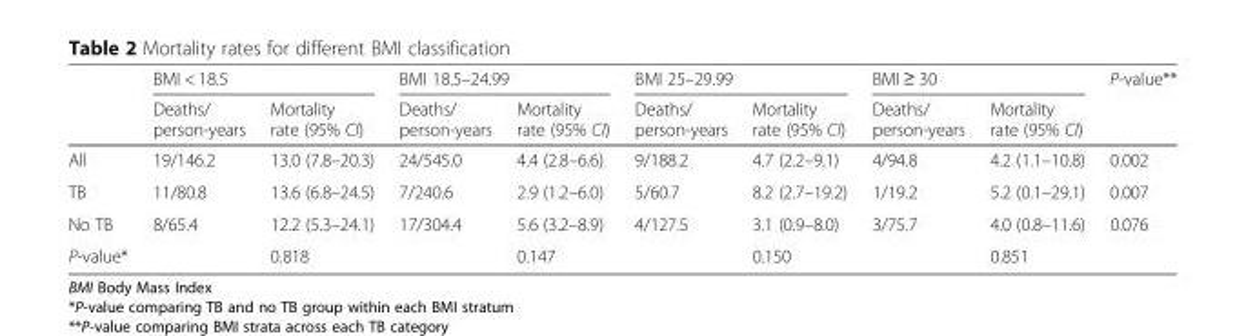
<table><thead><tr><td rowspan="2"></td><td colspan="2">BMI &lt; 18.5</td><td colspan="2">BMI 18.5–24.99</td><td colspan="2">BMI 25–29.99</td><td colspan="2">BMI ≥ 30</td><td rowspan="2">P-value**</td></tr><tr><td>Deaths/ person-years</td><td>Mortality rate (95% CI)</td><td>Deaths/ person-years</td><td>Mortality rate (95% CI)</td><td>Deaths/ person-years</td><td>Mortality rate (95% CI)</td><td>Deaths/ person-years</td><td>Mortality rate (95% CI)</td></tr></thead><tbody><tr><td>All</td><td>19/146.2</td><td>13.0 (7.8–20.3)</td><td>24/545.0</td><td>4.4 (2.8–6.6)</td><td>9/188.2</td><td>4.7 (2.2–9.1)</td><td>4/94.8</td><td>4.2 (1.1–10.8)</td><td>0.002</td></tr><tr><td>TB</td><td>11/80.8</td><td>13.6 (6.8–24.5)</td><td>7/240.6</td><td>2.9 (1.2–6.0)</td><td>5/60.7</td><td>8.2 (2.7–19.2)</td><td>1/19.2</td><td>5.2 (0.1–29.1)</td><td>0.007</td></tr><tr><td>No TB</td><td>8/65.4</td><td>12.2 (5.3–24.1)</td><td>17/304.4</td><td>5.6 (3.2–8.9)</td><td>4/127.5</td><td>3.1 (0.9–8.0)</td><td>3/75.7</td><td>4.0 (0.8–11.6)</td><td>0.076</td></tr><tr><td>P-value*</td><td></td><td>0.818</td><td></td><td>0.147</td><td></td><td>0.150</td><td></td><td>0.851</td><td></td></tr></tbody></table>